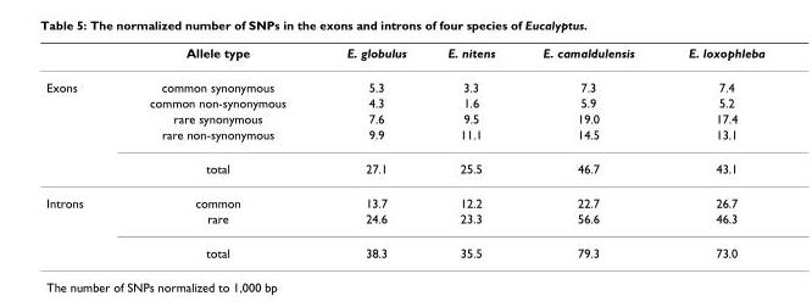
<table><thead><tr><td></td><td>Allele type</td><td>E. globulus</td><td>E. nitens</td><td>E. camaldulensis</td><td>E. loxophleba</td></tr></thead><tbody><tr><td rowspan="5">Exons</td><td>common synonymous</td><td>5.3</td><td>3.3</td><td>7.3</td><td>7.4</td></tr><tr><td>common non-synonymous</td><td>4.3</td><td>1.6</td><td>5.9</td><td>5.2</td></tr><tr><td>rare synonymous</td><td>7.6</td><td>9.5</td><td>19.0</td><td>17.4</td></tr><tr><td>rare non-synonymous</td><td>9.9</td><td>11.1</td><td>14.5</td><td>13.1</td></tr><tr><td>total</td><td>27.1</td><td>25.5</td><td>46.7</td><td>43.1</td></tr><tr><td rowspan="3">Introns</td><td>common</td><td>13.7</td><td>12.2</td><td>22.7</td><td>26.7</td></tr><tr><td>rare</td><td>24.6</td><td>23.3</td><td>56.6</td><td>46.3</td></tr><tr><td>total</td><td>38.3</td><td>35.5</td><td>79.3</td><td>73.0</td></tr></tbody></table>